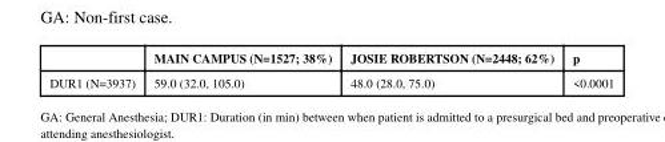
<table><thead><tr><td></td><td>MAIN CAMPUS (N=1527; 38%)</td><td>JOSIE ROBERTSON (N=2448; 62%)</td><td>p</td></tr></thead><tbody><tr><td>DUR1 (N=3937)</td><td>59.0 (32.0, 105.0)</td><td>48.0 (28.0, 75.0)</td><td>&lt;0.0001</td></tr></tbody></table>